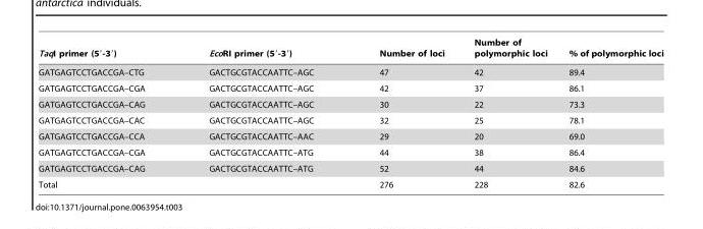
<table><thead><tr><td>TaqI primer (5′-3′)</td><td>EcoRI primer (5′-3′)</td><td>Number of loci</td><td>Number of polymorphic loci</td><td>% of polymorphic loci</td></tr></thead><tbody><tr><td>GATGAGTCCTGACCGA–CTG</td><td>GACTGCGTACCAATTC–AGC</td><td>47</td><td>42</td><td>89.4</td></tr><tr><td>GATGAGTCCTGACCGA–CGA</td><td>GACTGCGTACCAATTC–AGC</td><td>42</td><td>37</td><td>86.1</td></tr><tr><td>GATGAGTCCTGACCGA–CAG</td><td>GACTGCGTACCAATTC–AGC</td><td>30</td><td>22</td><td>73.3</td></tr><tr><td>GATGAGTCCTGACCGA–CAC</td><td>GACTGCGTACCAATTC–AGC</td><td>32</td><td>25</td><td>78.1</td></tr><tr><td>GATGAGTCCTGACCGA–CCA</td><td>GACTGCGTACCAATTC–AAC</td><td>29</td><td>20</td><td>69.0</td></tr><tr><td>GATGAGTCCTGACCGA–CGA</td><td>GACTGCGTACCAATTC–ATG</td><td>44</td><td>38</td><td>86.4</td></tr><tr><td>GATGAGTCCTGACCGA–CAG</td><td>GACTGCGTACCAATTC–ATG</td><td>52</td><td>44</td><td>84.6</td></tr><tr><td>Total</td><td></td><td>276</td><td>228</td><td>82.6</td></tr></tbody></table>